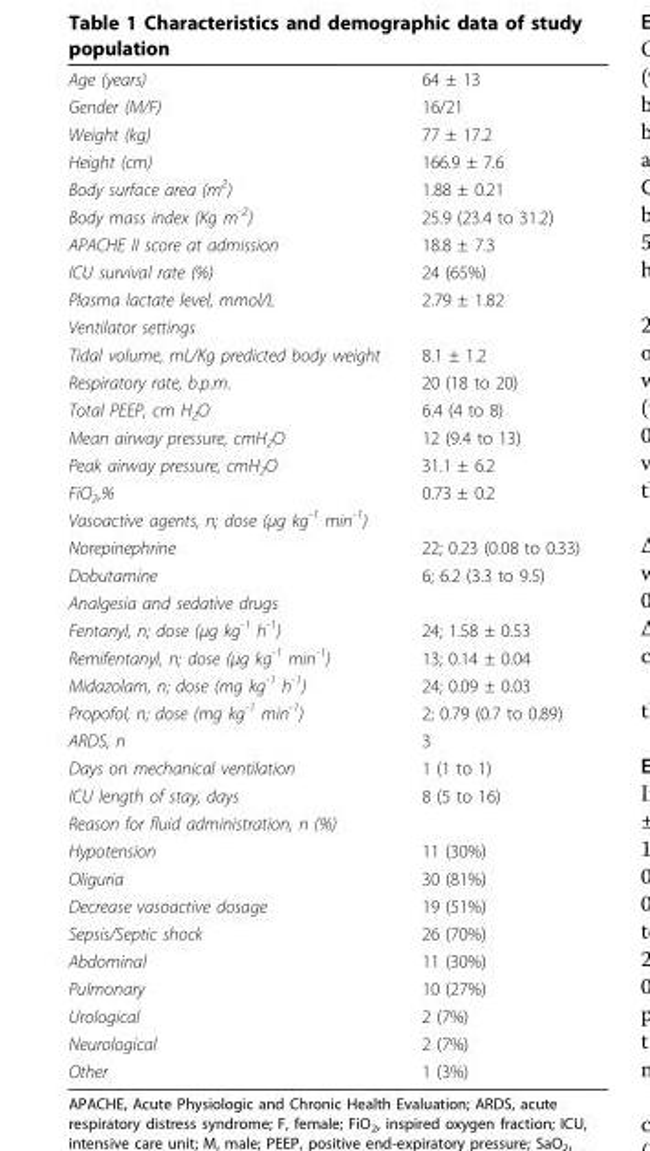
<table><tbody><tr><td>Age (years)</td><td>64 ± 13</td></tr><tr><td>Gender (M/F)</td><td>16/21</td></tr><tr><td>Weight (kg)</td><td>77 ± 17.2</td></tr><tr><td>Height (cm)</td><td>166.9 ± 7.6</td></tr><tr><td>Body surface area (m<sup>2</sup>)</td><td>1.88 ± 0.21</td></tr><tr><td>Body mass index (Kg m<sup>-2</sup>)</td><td>25.9 (23.4 to 31.2)</td></tr><tr><td>APACHE II score at admission</td><td>18.8 ± 7.3</td></tr><tr><td>ICU survival rate (%)</td><td>24 (65%)</td></tr><tr><td>Plasma lactate level, mmol/L</td><td>2.79 ± 1.82</td></tr><tr><td colspan="2">Ventilator settings</td></tr><tr><td>Tidal volume, mL/Kg predicted body weight</td><td>8.1 ± 1.2</td></tr><tr><td>Respiratory rate, b.p.m.</td><td>20 (18 to 20)</td></tr><tr><td>Total PEEP, cm H<sub>2</sub>O</td><td>6.4 (4 to 8)</td></tr><tr><td>Mean airway pressure, cmH<sub>2</sub>O</td><td>12 (9.4 to 13)</td></tr><tr><td>Peak airway pressure, cmH<sub>2</sub>O</td><td>31.1 ± 6.2</td></tr><tr><td>FiO<sub>2</sub>,%</td><td>0.73 ± 0.2</td></tr><tr><td colspan="2">Vasoactive agents, n; dose (μg kg<sup>-1</sup> min<sup>-1</sup>)</td></tr><tr><td>Norepinephrine</td><td>22; 0.23 (0.08 to 0.33)</td></tr><tr><td>Dobutamine</td><td>6; 6.2 (3.3 to 9.5)</td></tr><tr><td colspan="2">Analgesia and sedative drugs</td></tr><tr><td>Fentanyl, n; dose (μg kg<sup>-1</sup> h<sup>-1</sup>)</td><td>24; 1.58 ± 0.53</td></tr><tr><td>Remifentanyl, n; dose (μg kg<sup>-1</sup> min<sup>-1</sup>)</td><td>13; 0.14 ± 0.04</td></tr><tr><td>Midazolam, n; dose (mg kg<sup>-1</sup> h<sup>-1</sup>)</td><td>24; 0.09 ± 0.03</td></tr><tr><td>Propofol, n; dose (mg kg<sup>-1</sup> min<sup>-1</sup>)</td><td>2; 0.79 (0.7 to 0.89)</td></tr><tr><td>ARDS, n</td><td>3</td></tr><tr><td>Days on mechanical ventilation</td><td>1 (1 to 1)</td></tr><tr><td>ICU length of stay, days</td><td>8 (5 to 16)</td></tr><tr><td colspan="2">Reason for fluid administration, n (%)</td></tr><tr><td>Hypotension</td><td>11 (30%)</td></tr><tr><td>Oliguria</td><td>30 (81%)</td></tr><tr><td>Decrease vasoactive dosage</td><td>19 (51%)</td></tr><tr><td>Sepsis/Septic shock</td><td>26 (70%)</td></tr><tr><td>Abdominal</td><td>11 (30%)</td></tr><tr><td>Pulmonary</td><td>10 (27%)</td></tr><tr><td>Urological</td><td>2 (7%)</td></tr><tr><td>Neurological</td><td>2 (7%)</td></tr><tr><td>Other</td><td>1 (3%)</td></tr></tbody></table>